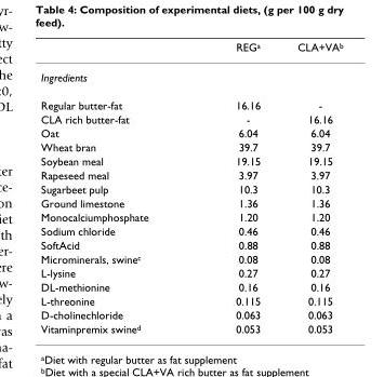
<table><thead><tr><td></td><td>REG<sup>a</sup></td><td>CLA+VA<sup>b</sup></td></tr></thead><tbody><tr><td colspan="3">Ingredients</td></tr><tr><td>Regular butter-fat</td><td>16.16</td><td>-</td></tr><tr><td>CLA rich butter-fat</td><td>-</td><td>16.16</td></tr><tr><td>Oat</td><td>6.04</td><td>6.04</td></tr><tr><td>Wheat bran</td><td>39.7</td><td>39.7</td></tr><tr><td>Soybean meal</td><td>19.15</td><td>19.15</td></tr><tr><td>Rapeseed meal</td><td>3.97</td><td>3.97</td></tr><tr><td>Sugarbeet pulp</td><td>10.3</td><td>10.3</td></tr><tr><td>Ground limestone</td><td>1.36</td><td>1.36</td></tr><tr><td>Monocalciumphosphate</td><td>1.20</td><td>1.20</td></tr><tr><td>Sodium chloride</td><td>0.46</td><td>0.46</td></tr><tr><td>SoftAcid</td><td>0.88</td><td>0.88</td></tr><tr><td>Microminerals, swine<sup>c</sup></td><td>0.08</td><td>0.08</td></tr><tr><td>L-lysine</td><td>0.27</td><td>0.27</td></tr><tr><td>DL-methionine</td><td>0.16</td><td>0.16</td></tr><tr><td>L-threonine</td><td>0.115</td><td>0.115</td></tr><tr><td>D-cholinechloride</td><td>0.063</td><td>0.063</td></tr><tr><td>Vitaminpremix swine<sup>d</sup></td><td>0.053</td><td>0.053</td></tr></tbody></table>